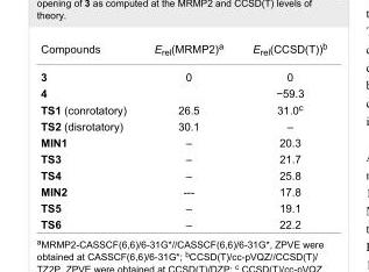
<table><tbody><tr><td>Compounds</td><td>E<sub>rel</sub>(MRMP2)<sup>a</sup></td><td>E<sub>rel</sub>(CCSD(T))<sup>b</sup></td></tr><tr><td>3</td><td>0</td><td>0</td></tr><tr><td>4</td><td></td><td>−59.3</td></tr><tr><td>TS1 (conrotatory)</td><td>26.5</td><td>31.0<sup>c</sup></td></tr><tr><td>TS2 (disrotatory)</td><td>30.1</td><td>–</td></tr><tr><td>MIN1</td><td>–</td><td>20.3</td></tr><tr><td>TS3</td><td>–</td><td>21.7</td></tr><tr><td>TS4</td><td>–</td><td>25.8</td></tr><tr><td>MIN2</td><td>---</td><td>17.8</td></tr><tr><td>TS5</td><td>–</td><td>19.1</td></tr><tr><td>TS6</td><td>–</td><td>22.2</td></tr></tbody></table>